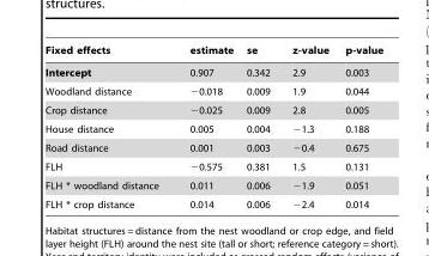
<table><thead><tr><td>Fixed effects</td><td>estimate</td><td>se</td><td>z-value</td><td>p-value</td></tr></thead><tbody><tr><td>Intercept</td><td>0.907</td><td>0.342</td><td>2.9</td><td>0.003</td></tr><tr><td>Woodland distance</td><td>−0.018</td><td>0.009</td><td>1.9</td><td>0.044</td></tr><tr><td>Crop distance</td><td>−0.025</td><td>0.009</td><td>2.8</td><td>0.005</td></tr><tr><td>House distance</td><td>0.005</td><td>0.004</td><td>−1.3</td><td>0.188</td></tr><tr><td>Road distance</td><td>0.001</td><td>0.003</td><td>−0.4</td><td>0.675</td></tr><tr><td>FLH</td><td>−0.575</td><td>0.381</td><td>1.5</td><td>0.131</td></tr><tr><td>FLH * woodland distance</td><td>0.011</td><td>0.006</td><td>−1.9</td><td>0.051</td></tr><tr><td>FLH * crop distance</td><td>0.014</td><td>0.006</td><td>−2.4</td><td>0.014</td></tr></tbody></table>